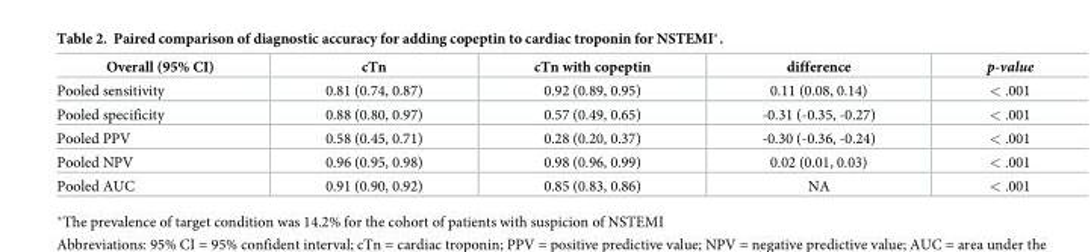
<table><thead><tr><td>Overall (95% CI)</td><td>cTn</td><td>cTn with copeptin</td><td>difference</td><td>p-value</td></tr></thead><tbody><tr><td>Pooled sensitivity</td><td>0.81 (0.74, 0.87)</td><td>0.92 (0.89, 0.95)</td><td>0.11 (0.08, 0.14)</td><td>&lt; .001</td></tr><tr><td>Pooled specificity</td><td>0.88 (0.80, 0.97)</td><td>0.57 (0.49, 0.65)</td><td>-0.31 (-0.35, -0.27)</td><td>&lt; .001</td></tr><tr><td>Pooled PPV</td><td>0.58 (0.45, 0.71)</td><td>0.28 (0.20, 0.37)</td><td>-0.30 (-0.36, -0.24)</td><td>&lt; .001</td></tr><tr><td>Pooled NPV</td><td>0.96 (0.95, 0.98)</td><td>0.98 (0.96, 0.99)</td><td>0.02 (0.01, 0.03)</td><td>&lt; .001</td></tr><tr><td>Pooled AUC</td><td>0.91 (0.90, 0.92)</td><td>0.85 (0.83, 0.86)</td><td>NA</td><td>&lt; .001</td></tr></tbody></table>